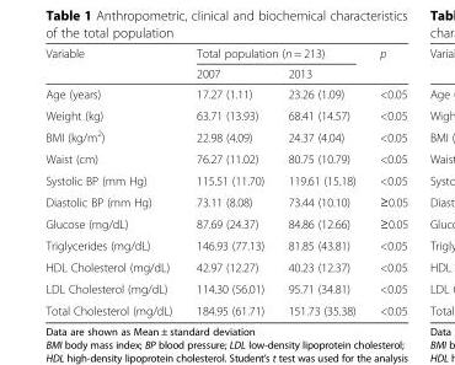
<table><thead><tr><td rowspan="2">Variable</td><td colspan="2">Total population (n = 213)</td><td rowspan="2">p</td></tr><tr><td>2007</td><td>2013</td></tr></thead><tbody><tr><td>Age (years)</td><td>17.27 (1.11)</td><td>23.26 (1.09)</td><td>&lt;0.05</td></tr><tr><td>Weight (kg)</td><td>63.71 (13.93)</td><td>68.41 (14.57)</td><td>&lt;0.05</td></tr><tr><td>BMI (kg/m<sup>2</sup>)</td><td>22.98 (4.09)</td><td>24.37 (4.04)</td><td>&lt;0.05</td></tr><tr><td>Waist (cm)</td><td>76.27 (11.02)</td><td>80.75 (10.79)</td><td>&lt;0.05</td></tr><tr><td>Systolic BP (mm Hg)</td><td>115.51 (11.70)</td><td>119.61 (15.18)</td><td>&lt;0.05</td></tr><tr><td>Diastolic BP (mm Hg)</td><td>73.11 (8.08)</td><td>73.44 (10.10)</td><td>≥0.05</td></tr><tr><td>Glucose (mg/dL)</td><td>87.69 (24.37)</td><td>84.86 (12.66)</td><td>≥0.05</td></tr><tr><td>Triglycerides (mg/dL)</td><td>146.93 (77.13)</td><td>81.85 (43.81)</td><td>&lt;0.05</td></tr><tr><td>HDL Cholesterol (mg/dL)</td><td>42.97 (12.27)</td><td>40.23 (12.37)</td><td>&lt;0.05</td></tr><tr><td>LDL Cholesterol (mg/dL)</td><td>114.30 (56.01)</td><td>95.71 (34.81)</td><td>&lt;0.05</td></tr><tr><td>Total Cholesterol (mg/dL)</td><td>184.95 (61.71)</td><td>151.73 (35.38)</td><td>&lt;0.05</td></tr></tbody></table>